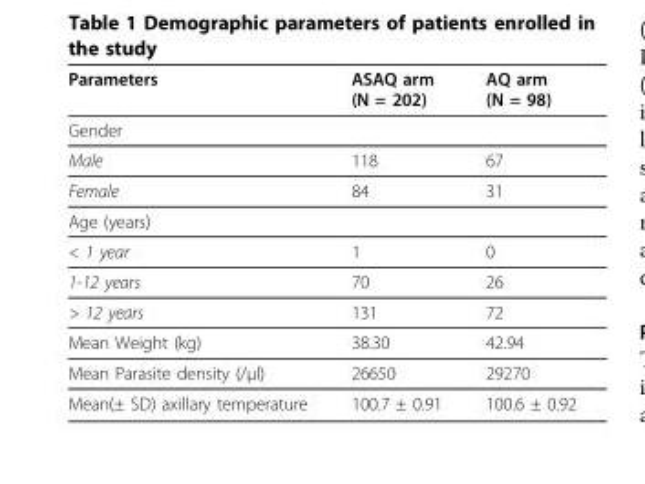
<table><thead><tr><td>Parameters</td><td>ASAQ arm (N = 202)</td><td>AQ arm (N = 98)</td></tr></thead><tbody><tr><td colspan="3">Gender</td></tr><tr><td>Male</td><td>118</td><td>67</td></tr><tr><td>Female</td><td>84</td><td>31</td></tr><tr><td colspan="3">Age (years)</td></tr><tr><td>&lt; 1 year</td><td>1</td><td>0</td></tr><tr><td>1-12 years</td><td>70</td><td>26</td></tr><tr><td>&gt; 12 years</td><td>131</td><td>72</td></tr><tr><td>Mean Weight (kg)</td><td>38.30</td><td>42.94</td></tr><tr><td>Mean Parasite density (/μl)</td><td>26650</td><td>29270</td></tr><tr><td>Mean(± SD) axillary temperature</td><td>100.7 ± 0.91</td><td>100.6 ± 0.92</td></tr></tbody></table>